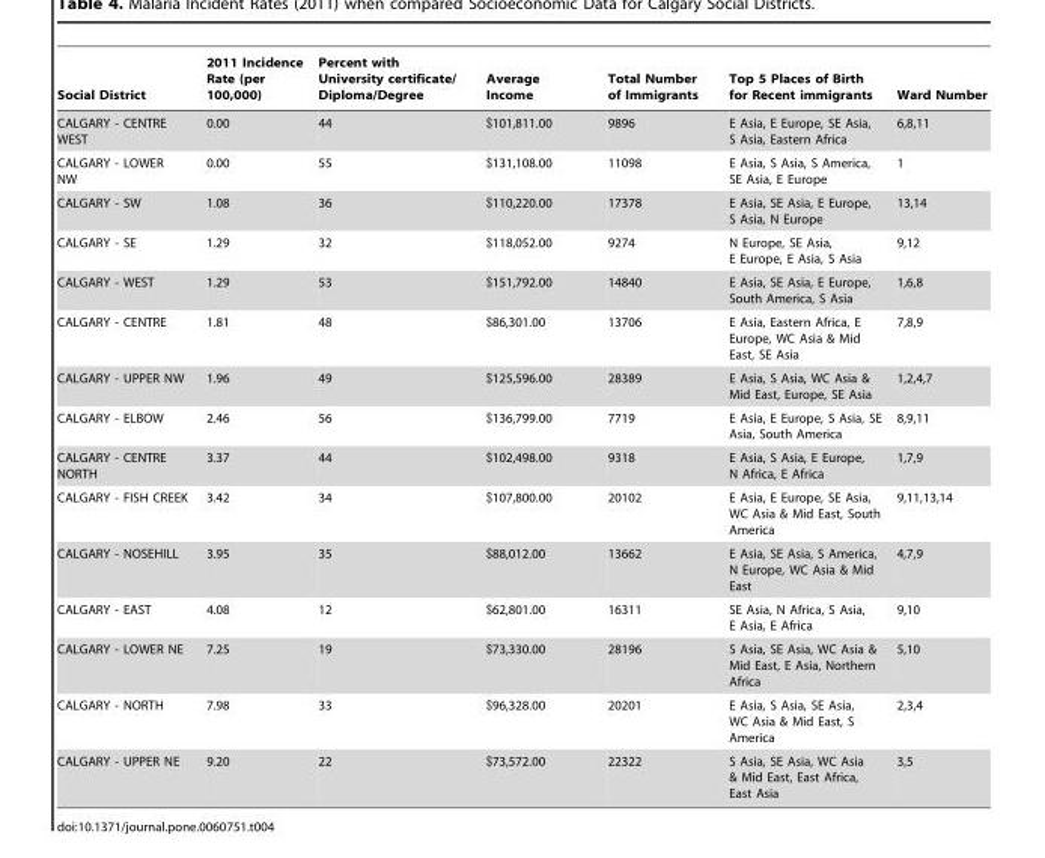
<table><thead><tr><td>Social District</td><td>2011 Incidence Rate (per 100,000)</td><td>Percent with University certificate/ Diploma/Degree</td><td>Average Income</td><td>Total Number of Immigrants</td><td>Top 5 Places of Birth for Recent immigrants</td><td>Ward Number</td></tr></thead><tbody><tr><td>CALGARY - CENTRE WEST</td><td>0.00</td><td>44</td><td>$101,811.00</td><td>9896</td><td>E Asia, E Europe, SE Asia, S Asia, Eastern Africa</td><td>6,8,11</td></tr><tr><td>CALGARY - LOWER NW</td><td>0.00</td><td>55</td><td>$131,108.00</td><td>11098</td><td>E Asia, S Asia, S America, SE Asia, E Europe</td><td>1</td></tr><tr><td>CALGARY - SW</td><td>1.08</td><td>36</td><td>$110,220.00</td><td>17378</td><td>E Asia, SE Asia, E Europe, S Asia, N Europe</td><td>13,14</td></tr><tr><td>CALGARY - SE</td><td>1.29</td><td>32</td><td>$118,052.00</td><td>9274</td><td>N Europe, SE Asia, E Europe, E Asia, S Asia</td><td>9,12</td></tr><tr><td>CALGARY - WEST</td><td>1.29</td><td>53</td><td>$151,792.00</td><td>14840</td><td>E Asia, SE Asia, E Europe, South America, S Asia</td><td>1,6,8</td></tr><tr><td>CALGARY - CENTRE</td><td>1.81</td><td>48</td><td>$86,301.00</td><td>13706</td><td>E Asia, Eastern Africa, E Europe, WC Asia &amp; Mid East, SE Asia</td><td>7,8,9</td></tr><tr><td>CALGARY - UPPER NW</td><td>1.96</td><td>49</td><td>$125,596.00</td><td>28389</td><td>E Asia, S Asia, WC Asia &amp; Mid East, Europe, SE Asia</td><td>1,2,4,7</td></tr><tr><td>CALGARY - ELBOW</td><td>2.46</td><td>56</td><td>$136,799.00</td><td>7719</td><td>E Asia, E Europe, S Asia, SE Asia, South America</td><td>8,9,11</td></tr><tr><td>CALGARY - CENTRE NORTH</td><td>3.37</td><td>44</td><td>$102,498.00</td><td>9318</td><td>E Asia, S Asia, E Europe, N Africa, E Africa</td><td>1,7,9</td></tr><tr><td>CALGARY - FISH CREEK</td><td>3.42</td><td>34</td><td>$107,800.00</td><td>20102</td><td>E Asia, E Europe, SE Asia, WC Asia &amp; Mid East, South America</td><td>9,11,13,14</td></tr><tr><td>CALGARY - NOSEHILL</td><td>3.95</td><td>35</td><td>$88,012.00</td><td>13662</td><td>E Asia, SE Asia, S America, N Europe, WC Asia &amp; Mid East</td><td>4,7,9</td></tr><tr><td>CALGARY - EAST</td><td>4.08</td><td>12</td><td>$62,801.00</td><td>16311</td><td>SE Asia, N Africa, S Asia, E Asia, E Africa</td><td>9,10</td></tr><tr><td>CALGARY - LOWER NE</td><td>7.25</td><td>19</td><td>$73,330.00</td><td>28196</td><td>S Asia, SE Asia, WC Asia &amp; Mid East, E Asia, Northern Africa</td><td>5,10</td></tr><tr><td>CALGARY - NORTH</td><td>7.98</td><td>33</td><td>$96,328.00</td><td>20201</td><td>E Asia, S Asia, SE Asia, WC Asia &amp; Mid East, S America</td><td>2,3,4</td></tr><tr><td>CALGARY - UPPER NE</td><td>9.20</td><td>22</td><td>$73,572.00</td><td>22322</td><td>S Asia, SE Asia, WC Asia &amp; Mid East, East Africa, East Asia</td><td>3,5</td></tr></tbody></table>